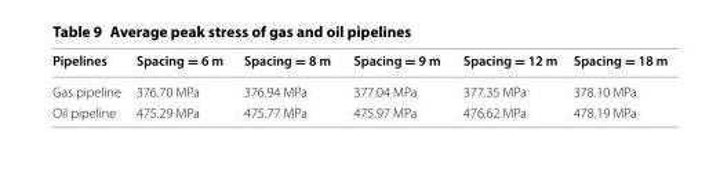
<table><thead><tr><td>Pipelines</td><td>Spacing = 6 m</td><td>Spacing = 8 m</td><td>Spacing = 9 m</td><td>Spacing = 12 m</td><td>Spacing = 18 m</td></tr></thead><tbody><tr><td>Gas pipeline</td><td>376.70 MPa</td><td>376.94 MPa</td><td>377.04 MPa</td><td>377.35 MPa</td><td>378.10 MPa</td></tr><tr><td>Oil pipeline</td><td>475.29 MPa</td><td>475.77 MPa</td><td>475.97 MPa</td><td>476.62 MPa</td><td>478.19 MPa</td></tr></tbody></table>